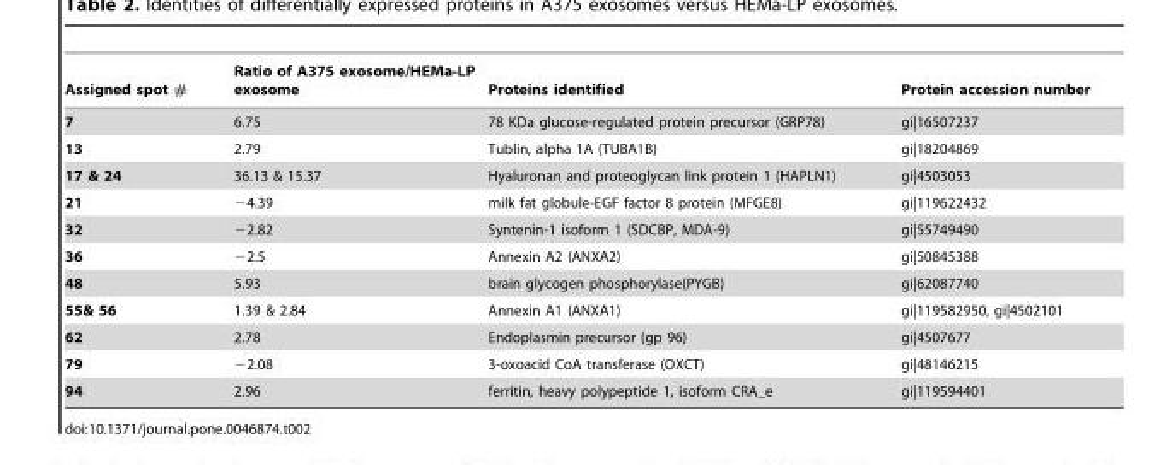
<table><thead><tr><td>Assigned spot #</td><td>Ratio of A375 exosome/HEMa-LP exosome</td><td>Proteins identified</td><td>Protein accession number</td></tr></thead><tbody><tr><td>7</td><td>6.75</td><td>78 KDa glucose-regulated protein precursor (GRP78)</td><td>gi|16507237</td></tr><tr><td>13</td><td>2.79</td><td>Tublin, alpha 1A (TUBA1B)</td><td>gi|18204869</td></tr><tr><td>17 &amp; 24</td><td>36.13 &amp; 15.37</td><td>Hyaluronan and proteoglycan link protein 1 (HAPLN1)</td><td>gi|4503053</td></tr><tr><td>21</td><td>−4.39</td><td>milk fat globule-EGF factor 8 protein (MFGE8)</td><td>gi|119622432</td></tr><tr><td>32</td><td>−2.82</td><td>Syntenin-1 isoform 1 (SDCBP, MDA-9)</td><td>gi|55749490</td></tr><tr><td>36</td><td>−2.5</td><td>Annexin A2 (ANXA2)</td><td>gi|50845388</td></tr><tr><td>48</td><td>5.93</td><td>brain glycogen phosphorylase(PYGB)</td><td>gi|62087740</td></tr><tr><td>55&amp; 56</td><td>1.39 &amp; 2.84</td><td>Annexin A1 (ANXA1)</td><td>gi|119582950, gi|4502101</td></tr><tr><td>62</td><td>2.78</td><td>Endoplasmin precursor (gp 96)</td><td>gi|4507677</td></tr><tr><td>79</td><td>−2.08</td><td>3-oxoacid CoA transferase (OXCT)</td><td>gi|48146215</td></tr><tr><td>94</td><td>2.96</td><td>ferritin, heavy polypeptide 1, isoform CRA_e</td><td>gi|119594401</td></tr></tbody></table>